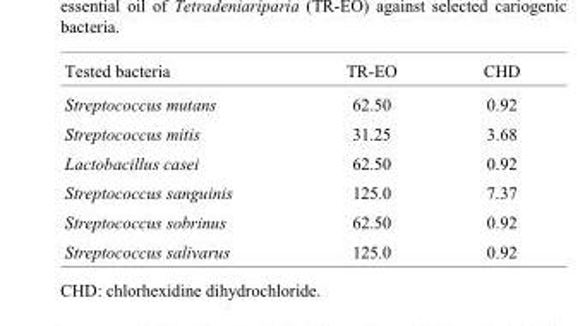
<table><thead><tr><td>Tested bacteria</td><td>TR-EO</td><td>CHD</td></tr></thead><tbody><tr><td>Streptococcus mutans</td><td>62.50</td><td>0.92</td></tr><tr><td>Streptococcus mitis</td><td>31.25</td><td>3.68</td></tr><tr><td>Lactobacillus casei</td><td>62.50</td><td>0.92</td></tr><tr><td>Streptococcus sanguinis</td><td>125.0</td><td>7.37</td></tr><tr><td>Streptococcus sobrinus</td><td>62.50</td><td>0.92</td></tr><tr><td>Streptococcus salivarus</td><td>125.0</td><td>0.92</td></tr></tbody></table>